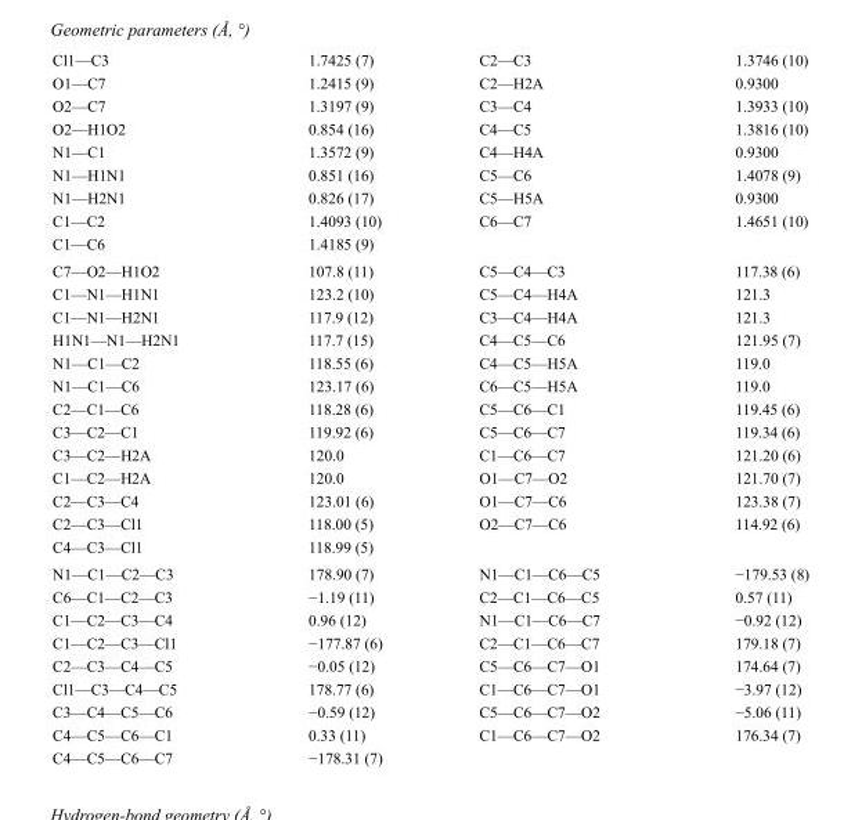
<table><tbody><tr><td>Cl1—C3</td><td>1.7425 (7)</td><td>C2—C3</td><td>1.3746 (10)</td></tr><tr><td>O1—C7</td><td>1.2415 (9)</td><td>C2—H2A</td><td>0.9300</td></tr><tr><td>O2—C7</td><td>1.3197 (9)</td><td>C3—C4</td><td>1.3933 (10)</td></tr><tr><td>O2—H1O2</td><td>0.854 (16)</td><td>C4—C5</td><td>1.3816 (10)</td></tr><tr><td>N1—C1</td><td>1.3572 (9)</td><td>C4—H4A</td><td>0.9300</td></tr><tr><td>N1—H1N1</td><td>0.851 (16)</td><td>C5—C6</td><td>1.4078 (9)</td></tr><tr><td>N1—H2N1</td><td>0.826 (17)</td><td>C5—H5A</td><td>0.9300</td></tr><tr><td>C1—C2</td><td>1.4093 (10)</td><td>C6—C7</td><td>1.4651 (10)</td></tr><tr><td>C1—C6</td><td>1.4185 (9)</td><td></td><td></td></tr><tr><td>C7—O2—H1O2</td><td>107.8 (11)</td><td>C5—C4—C3</td><td>117.38 (6)</td></tr><tr><td>C1—N1—H1N1</td><td>123.2 (10)</td><td>C5—C4—H4A</td><td>121.3</td></tr><tr><td>C1—N1—H2N1</td><td>117.9 (12)</td><td>C3—C4—H4A</td><td>121.3</td></tr><tr><td>H1N1—N1—H2N1</td><td>117.7 (15)</td><td>C4—C5—C6</td><td>121.95 (7)</td></tr><tr><td>N1—C1—C2</td><td>118.55 (6)</td><td>C4—C5—H5A</td><td>119.0</td></tr><tr><td>N1—C1—C6</td><td>123.17 (6)</td><td>C6—C5—H5A</td><td>119.0</td></tr><tr><td>C2—C1—C6</td><td>118.28 (6)</td><td>C5—C6—C1</td><td>119.45 (6)</td></tr><tr><td>C3—C2—C1</td><td>119.92 (6)</td><td>C5—C6—C7</td><td>119.34 (6)</td></tr><tr><td>C3—C2—H2A</td><td>120.0</td><td>C1—C6—C7</td><td>121.20 (6)</td></tr><tr><td>C1—C2—H2A</td><td>120.0</td><td>O1—C7—O2</td><td>121.70 (7)</td></tr><tr><td>C2—C3—C4</td><td>123.01 (6)</td><td>O1—C7—C6</td><td>123.38 (7)</td></tr><tr><td>C2—C3—Cl1</td><td>118.00 (5)</td><td>O2—C7—C6</td><td>114.92 (6)</td></tr><tr><td>C4—C3—Cl1</td><td>118.99 (5)</td><td></td><td></td></tr><tr><td>N1—C1—C2—C3</td><td>178.90 (7)</td><td>N1—C1—C6—C5</td><td>−179.53 (8)</td></tr><tr><td>C6—C1—C2—C3</td><td>−1.19 (11)</td><td>C2—C1—C6—C5</td><td>0.57 (11)</td></tr><tr><td>C1—C2—C3—C4</td><td>0.96 (12)</td><td>N1—C1—C6—C7</td><td>−0.92 (12)</td></tr><tr><td>C1—C2—C3—Cl1</td><td>−177.87 (6)</td><td>C2—C1—C6—C7</td><td>179.18 (7)</td></tr><tr><td>C2—C3—C4—C5</td><td>−0.05 (12)</td><td>C5—C6—C7—O1</td><td>174.64 (7)</td></tr><tr><td>Cl1—C3—C4—C5</td><td>178.77 (6)</td><td>C1—C6—C7—O1</td><td>−3.97 (12)</td></tr><tr><td>C3—C4—C5—C6</td><td>−0.59 (12)</td><td>C5—C6—C7—O2</td><td>−5.06 (11)</td></tr><tr><td>C4—C5—C6—C1</td><td>0.33 (11)</td><td>C1—C6—C7—O2</td><td>176.34 (7)</td></tr><tr><td>C4—C5—C6—C7</td><td>−178.31 (7)</td><td></td><td></td></tr></tbody></table>